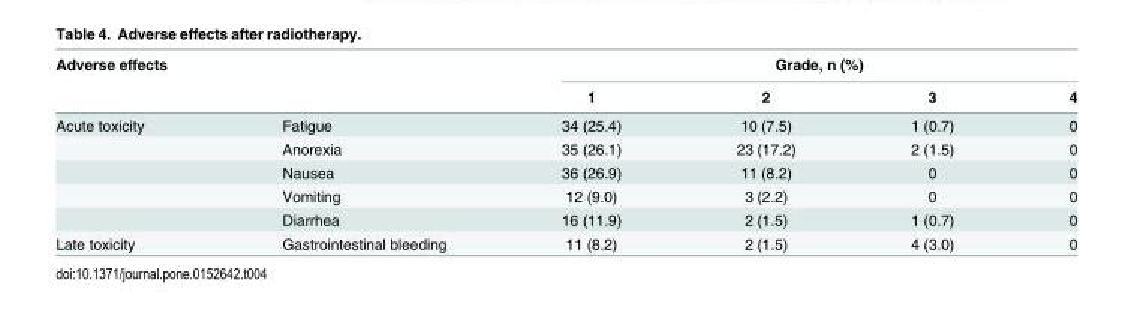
<table><thead><tr><td rowspan="2">Adverse effects</td><td rowspan="2"></td><td colspan="4">Grade, n (%)</td></tr><tr><td>1</td><td>2</td><td>3</td><td>4</td></tr></thead><tbody><tr><td rowspan="5">Acute toxicity</td><td>Fatigue</td><td>34 (25.4)</td><td>10 (7.5)</td><td>1 (0.7)</td><td>0</td></tr><tr><td>Anorexia</td><td>35 (26.1)</td><td>23 (17.2)</td><td>2 (1.5)</td><td>0</td></tr><tr><td>Nausea</td><td>36 (26.9)</td><td>11 (8.2)</td><td>0</td><td>0</td></tr><tr><td>Vomiting</td><td>12 (9.0)</td><td>3 (2.2)</td><td>0</td><td>0</td></tr><tr><td>Diarrhea</td><td>16 (11.9)</td><td>2 (1.5)</td><td>1 (0.7)</td><td>0</td></tr><tr><td>Late toxicity</td><td>Gastrointestinal bleeding</td><td>11 (8.2)</td><td>2 (1.5)</td><td>4 (3.0)</td><td>0</td></tr></tbody></table>